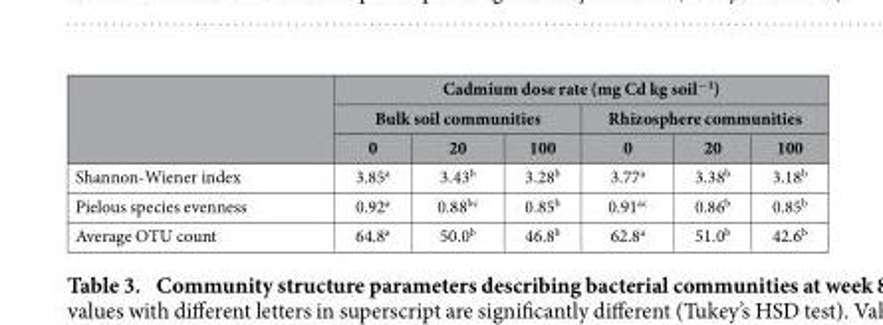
<table><thead><tr><td rowspan="3"></td><td colspan="6">Cadmium dose rate (mg Cd kg soil<sup>−1</sup>)</td></tr><tr><td colspan="3">Bulk soil communities</td><td colspan="3">Rhizosphere communities</td></tr><tr><td>0</td><td>20</td><td>100</td><td>0</td><td>20</td><td>100</td></tr></thead><tbody><tr><td>Shannon-Wiener index</td><td>3.85<sup>a</sup></td><td>3.43<sup>b</sup></td><td>3.28<sup>b</sup></td><td>3.77<sup>a</sup></td><td>3.38<sup>b</sup></td><td>3.18<sup>b</sup></td></tr><tr><td>Pielous species evenness</td><td>0.92<sup>a</sup></td><td>0.88<sup>bc</sup></td><td>0.85<sup>b</sup></td><td>0.91<sup>ac</sup></td><td>0.86<sup>b</sup></td><td>0.85<sup>b</sup></td></tr><tr><td>Average OTU count</td><td>64.8<sup>a</sup></td><td>50.0<sup>b</sup></td><td>46.8<sup>b</sup></td><td>62.8<sup>a</sup></td><td>51.0<sup>b</sup></td><td>42.6<sup>b</sup></td></tr></tbody></table>